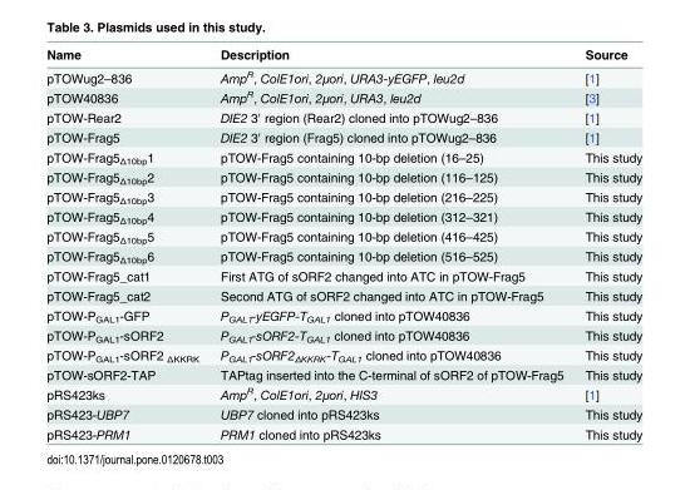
<table><thead><tr><td>Name</td><td>Description</td><td>Source</td></tr></thead><tbody><tr><td>pTOWug2–836</td><td>Amp<sup>R</sup>, ColE1ori, 2μori, URA3-yEGFP, leu2d</td><td>[1]</td></tr><tr><td>pTOW40836</td><td>Amp<sup>R</sup>, ColE1ori, 2μori, URA3, leu2d</td><td>[3]</td></tr><tr><td>pTOW-Rear2</td><td>DIE2 3′ region (Rear2) cloned into pTOWug2–836</td><td>[1]</td></tr><tr><td>pTOW-Frag5</td><td>DIE2 3′ region (Frag5) cloned into pTOWug2–836</td><td>[1]</td></tr><tr><td>pTOW-Frag5<sub>Δ10bp</sub>1</td><td>pTOW-Frag5 containing 10-bp deletion (16–25)</td><td>This study</td></tr><tr><td>pTOW-Frag5<sub>Δ10bp</sub>2</td><td>pTOW-Frag5 containing 10-bp deletion (116–125)</td><td>This study</td></tr><tr><td>pTOW-Frag5<sub>Δ10bp</sub>3</td><td>pTOW-Frag5 containing 10-bp deletion (216–225)</td><td>This study</td></tr><tr><td>pTOW-Frag5<sub>Δ10bp</sub>4</td><td>pTOW-Frag5 containing 10-bp deletion (312–321)</td><td>This study</td></tr><tr><td>pTOW-Frag5<sub>Δ10bp</sub>5</td><td>pTOW-Frag5 containing 10-bp deletion (416–425)</td><td>This study</td></tr><tr><td>pTOW-Frag5<sub>Δ10bp</sub>6</td><td>pTOW-Frag5 containing 10-bp deletion (516–525)</td><td>This study</td></tr><tr><td>pTOW-Frag5_cat1</td><td>First ATG of sORF2 changed into ATC in pTOW-Frag5</td><td>This study</td></tr><tr><td>pTOW-Frag5_cat2</td><td>Second ATG of sORF2 changed into ATC in pTOW-Frag5</td><td>This study</td></tr><tr><td>pTOW-P<sub>GAL1</sub>-GFP</td><td>P<sub>GAL1</sub>-yEGFP-T<sub>GAL1</sub> cloned into pTOW40836</td><td>This study</td></tr><tr><td>pTOW-P<sub>GAL1</sub>-sORF2</td><td>P<sub>GAL1</sub>-sORF2-T<sub>GAL1</sub> cloned into pTOW40836</td><td>This study</td></tr><tr><td>pTOW-P<sub>GAL1</sub>-sORF2 <sub>ΔKKRK</sub></td><td>P<sub>GAL1</sub>-sORF2<sub>ΔKKRK</sub>-T<sub>GAL1</sub> cloned into pTOW40836</td><td>This study</td></tr><tr><td>pTOW-sORF2-TAP</td><td>TAPtag inserted into the C-terminal of sORF2 of pTOW-Frag5</td><td>This study</td></tr><tr><td>pRS423ks</td><td>Amp<sup>R</sup>, ColE1ori, 2μori, HIS3</td><td>[1]</td></tr><tr><td>pRS423-UBP7</td><td>UBP7 cloned into pRS423ks</td><td>This study</td></tr><tr><td>pRS423-PRM1</td><td>PRM1 cloned into pRS423ks</td><td>This study</td></tr></tbody></table>